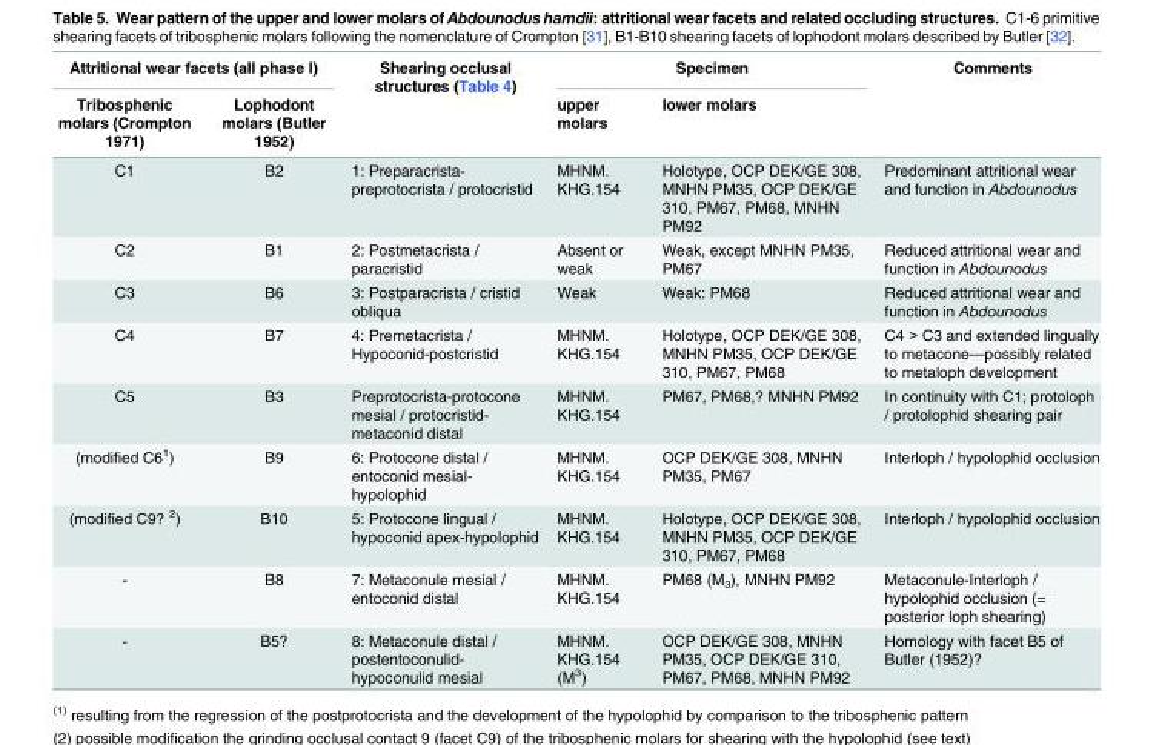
<table><thead><tr><td colspan="2">Attritional wear facets (all phase I)</td><td rowspan="2">Shearing occlusal structures (Table 4)</td><td colspan="2">Specimen</td><td rowspan="2">Comments</td></tr><tr><td>Tribosphenic molars (Crompton 1971)</td><td>Lophodont molars (Butler 1952)</td><td>upper molars</td><td>lower molars</td></tr></thead><tbody><tr><td>C1</td><td>B2</td><td>1: Preparacrista- preprotocrista / protocristid</td><td>MHNM. KHG.154</td><td>Holotype, OCP DEK/GE 308, MNHN PM35, OCP DEK/GE 310, PM67, PM68, MNHN PM92</td><td>Predominant attritional wear and function in Abdounodus</td></tr><tr><td>C2</td><td>B1</td><td>2: Postmetacrista / paracristid</td><td>Absent or weak</td><td>Weak, except MNHN PM35, PM67</td><td>Reduced attritional wear and function in Abdounodus</td></tr><tr><td>C3</td><td>B6</td><td>3: Postparacrista / cristid obliqua</td><td>Weak</td><td>Weak: PM68</td><td>Reduced attritional wear and function in Abdounodus</td></tr><tr><td>C4</td><td>B7</td><td>4: Premetacrista / Hypoconid-postcristid</td><td>MHNM. KHG.154</td><td>Holotype, OCP DEK/GE 308, MNHN PM35, OCP DEK/GE 310, PM67, PM68</td><td>C4 &gt; C3 and extended lingually to metacone—possibly related to metaloph development</td></tr><tr><td>C5</td><td>B3</td><td>Preprotocrista-protocone mesial / protocristid- metaconid distal</td><td>MHNM. KHG.154</td><td>PM67, PM68,? MNHN PM92</td><td>In continuity with C1; protoloph / protolophid shearing pair</td></tr><tr><td>(modified C6<sup>1</sup>)</td><td>B9</td><td>6: Protocone distal / entoconid mesial- hypolophid</td><td>MHNM. KHG.154</td><td>OCP DEK/GE 308, MNHN PM35, PM67</td><td>Interloph / hypolophid occlusion</td></tr><tr><td>(modified C9? <sup>2</sup>)</td><td>B10</td><td>5: Protocone lingual / hypoconid apex-hypolophid</td><td>MHNM. KHG.154</td><td>Holotype, OCP DEK/GE 308, MNHN PM35, OCP DEK/GE 310, PM67, PM68</td><td>Interloph / hypolophid occlusion</td></tr><tr><td>-</td><td>B8</td><td>7: Metaconule mesial / entoconid distal</td><td>MHNM. KHG.154</td><td>PM68 (M<sub>3</sub>), MNHN PM92</td><td>Metaconule-Interloph / hypolophid occlusion (= posterior loph shearing)</td></tr><tr><td>-</td><td>B5?</td><td>8: Metaconule distal / postentoconulid- hypoconulid mesial</td><td>MHNM. KHG.154 (M<sup>3</sup>)</td><td>OCP DEK/GE 308, MNHN PM35, OCP DEK/GE 310, PM67, PM68, MNHN PM92</td><td>Homology with facet B5 of Butler (1952)?</td></tr></tbody></table>